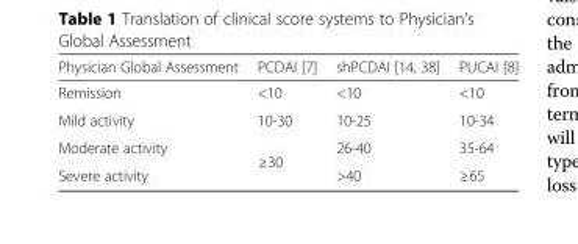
<table><thead><tr><td>Physician Global Assessment</td><td>PCDAI [7]</td><td>shPCDAI [14, 38]</td><td>PUCAI [8]</td></tr></thead><tbody><tr><td>Remission</td><td>&lt;10</td><td>&lt;10</td><td>&lt;10</td></tr><tr><td>Mild activity</td><td>10-30</td><td>10-25</td><td>10-34</td></tr><tr><td>Moderate activity</td><td rowspan="2">≥30</td><td>26-40</td><td>35-64</td></tr><tr><td>Severe activity</td><td>&gt;40</td><td>≥65</td></tr></tbody></table>